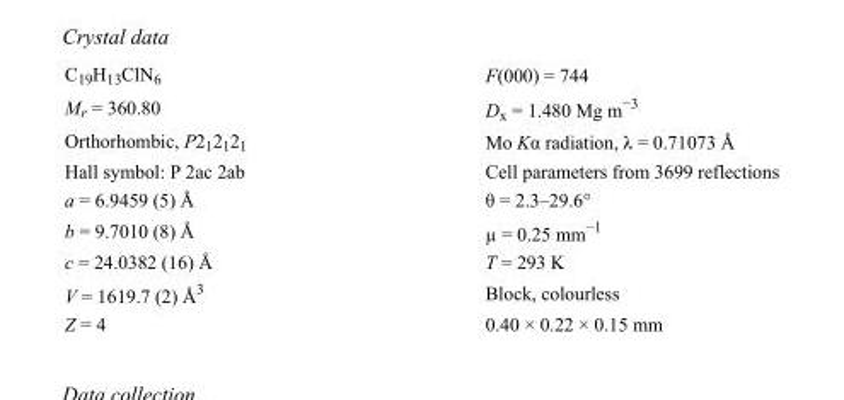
<table><tbody><tr><td>C<sub>19</sub>H<sub>13</sub>ClN<sub>6</sub></td><td>F(000) = 744</td></tr><tr><td>M<sub>r</sub> = 360.80</td><td>D<sub>x</sub> = 1.480 Mg m<sup>−3</sup></td></tr><tr><td>Orthorhombic, P2<sub>1</sub>2<sub>1</sub>2<sub>1</sub></td><td>Mo Kα radiation, λ = 0.71073 Å</td></tr><tr><td>Hall symbol: P 2ac 2ab</td><td>Cell parameters from 3699 reflections</td></tr><tr><td>a = 6.9459 (5) Å</td><td>θ = 2.3–29.6°</td></tr><tr><td>b = 9.7010 (8) Å</td><td>µ = 0.25 mm<sup>−1</sup></td></tr><tr><td>c = 24.0382 (16) Å</td><td>T = 293 K</td></tr><tr><td>V = 1619.7 (2) Å<sup>3</sup></td><td>Block, colourless</td></tr><tr><td>Z = 4</td><td>0.40 × 0.22 × 0.15 mm</td></tr></tbody></table>